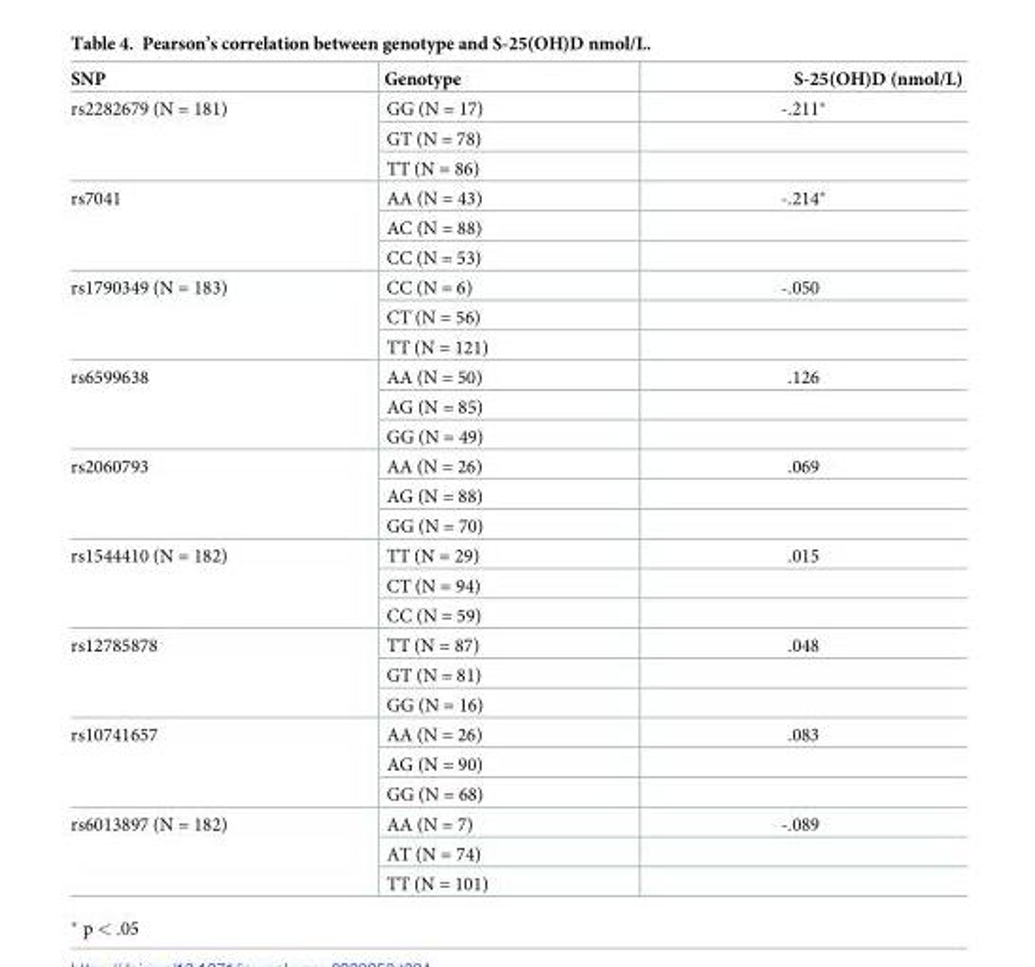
<table><thead><tr><td>SNP</td><td>Genotype</td><td>S-25(OH)D (nmol/L)</td></tr></thead><tbody><tr><td rowspan="3">rs2282679 (N = 181)</td><td>GG (N = 17)</td><td>-.211*</td></tr><tr><td>GT (N = 78)</td><td></td></tr><tr><td>TT (N = 86)</td><td></td></tr><tr><td rowspan="3">rs7041</td><td>AA (N = 43)</td><td>-.214*</td></tr><tr><td>AC (N = 88)</td><td></td></tr><tr><td>CC (N = 53)</td><td></td></tr><tr><td rowspan="3">rs1790349 (N = 183)</td><td>CC (N = 6)</td><td>-.050</td></tr><tr><td>CT (N = 56)</td><td></td></tr><tr><td>TT (N = 121)</td><td></td></tr><tr><td rowspan="3">rs6599638</td><td>AA (N = 50)</td><td>.126</td></tr><tr><td>AG (N = 85)</td><td></td></tr><tr><td>GG (N = 49)</td><td></td></tr><tr><td rowspan="3">rs2060793</td><td>AA (N = 26)</td><td>.069</td></tr><tr><td>AG (N = 88)</td><td></td></tr><tr><td>GG (N = 70)</td><td></td></tr><tr><td rowspan="3">rs1544410 (N = 182)</td><td>TT (N = 29)</td><td>.015</td></tr><tr><td>CT (N = 94)</td><td></td></tr><tr><td>CC (N = 59)</td><td></td></tr><tr><td rowspan="3">rs12785878</td><td>TT (N = 87)</td><td>.048</td></tr><tr><td>GT (N = 81)</td><td></td></tr><tr><td>GG (N = 16)</td><td></td></tr><tr><td rowspan="3">rs10741657</td><td>AA (N = 26)</td><td>.083</td></tr><tr><td>AG (N = 90)</td><td></td></tr><tr><td>GG (N = 68)</td><td></td></tr><tr><td rowspan="3">rs6013897 (N = 182)</td><td>AA (N = 7)</td><td>-.089</td></tr><tr><td>AT (N = 74)</td><td></td></tr><tr><td>TT (N = 101)</td><td></td></tr></tbody></table>